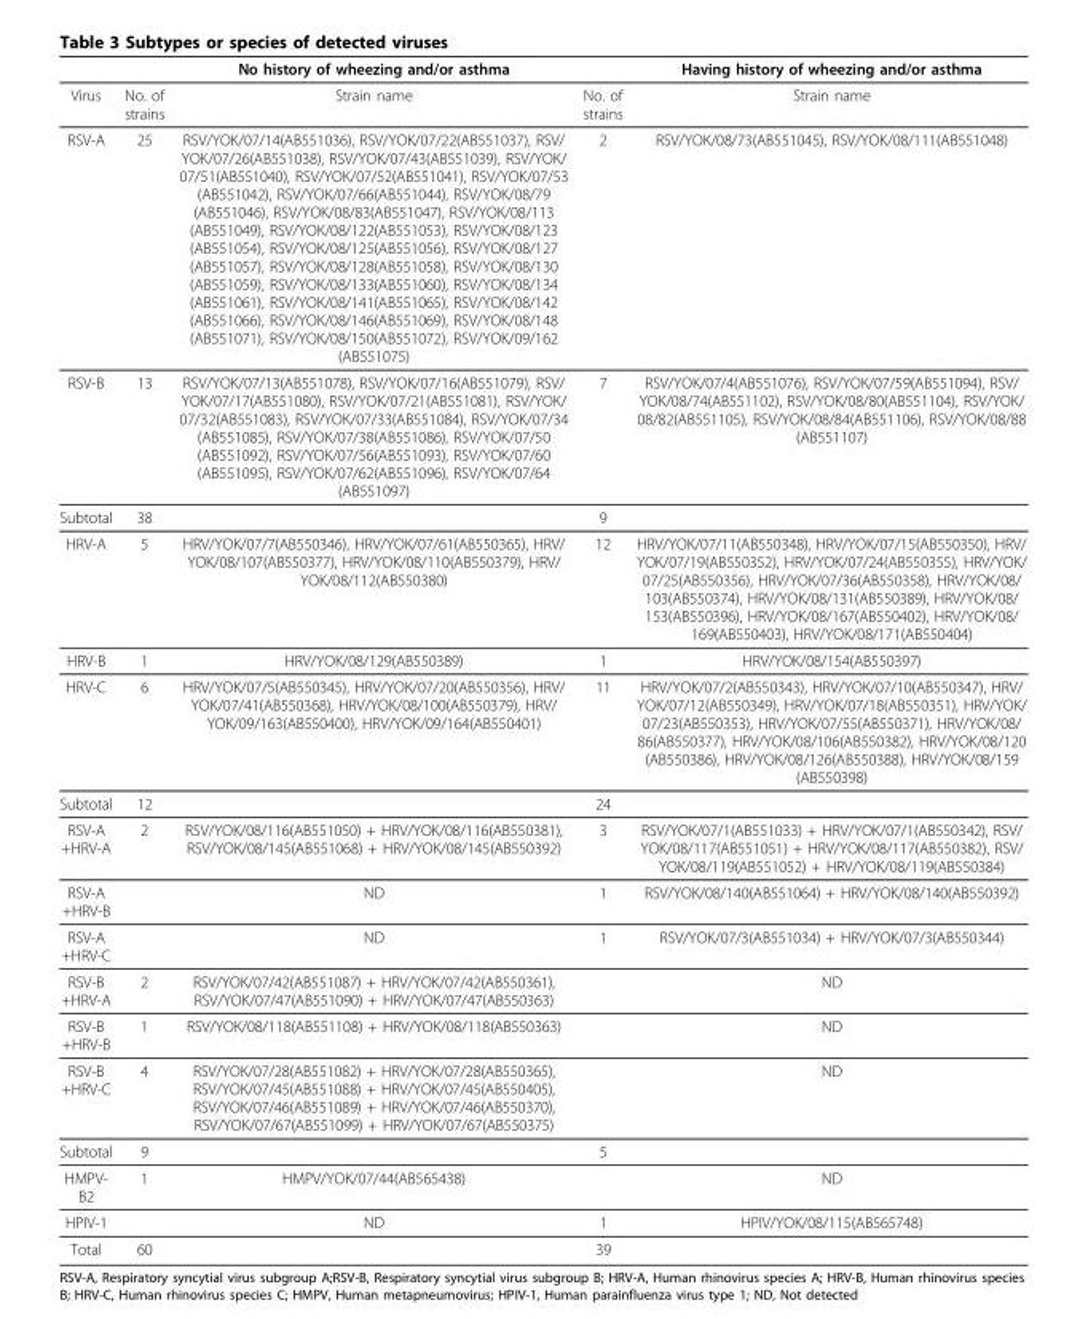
<table><thead><tr><td></td><td></td><td>No history of wheezing and/or asthma</td><td></td><td>Having history of wheezing and/or asthma</td></tr></thead><tbody><tr><td>Virus</td><td>No. of strains</td><td>Strain name</td><td>No. of strains</td><td>Strain name</td></tr><tr><td>RSV-A</td><td>25</td><td>RSV/YOK/07/14(AB551036), RSV/YOK/07/22(AB551037), RSV/ YOK/07/26(AB551038), RSV/YOK/07/43(AB551039), RSV/YOK/ 07/51(AB551040), RSV/YOK/07/52(AB551041), RSV/YOK/07/53 (AB551042), RSV/YOK/07/66(AB551044), RSV/YOK/08/79 (AB551046), RSV/YOK/08/83(AB551047), RSV/YOK/08/113 (AB551049), RSV/YOK/08/122(AB551053), RSV/YOK/08/123 (AB551054), RSV/YOK/08/125(AB551056), RSV/YOK/08/127 (AB551057), RSV/YOK/08/128(AB551058), RSV/YOK/08/130 (AB551059), RSV/YOK/08/133(AB551060), RSV/YOK/08/134 (AB551061), RSV/YOK/08/141(AB551065), RSV/YOK/08/142 (AB551066), RSV/YOK/08/146(AB551069), RSV/YOK/08/148 (AB551071), RSV/YOK/08/150(AB551072), RSV/YOK/09/162 (AB551075)</td><td>2</td><td>RSV/YOK/08/73(AB551045), RSV/YOK/08/111(AB551048)</td></tr><tr><td>RSV-B</td><td>13</td><td>RSV/YOK/07/13(AB551078), RSV/YOK/07/16(AB551079), RSV/ YOK/07/17(AB551080), RSV/YOK/07/21(AB551081), RSV/YOK/ 07/32(AB551083), RSV/YOK/07/33(AB551084), RSV/YOK/07/34 (AB551085), RSV/YOK/07/38(AB551086), RSV/YOK/07/50 (AB551092), RSV/YOK/07/56(AB551093), RSV/YOK/07/60 (AB551095), RSV/YOK/07/62(AB551096), RSV/YOK/07/64 (AB551097)</td><td>7</td><td>RSV/YOK/07/4(AB551076), RSV/YOK/07/59(AB551094), RSV/ YOK/08/74(AB551102), RSV/YOK/08/80(AB551104), RSV/YOK/ 08/82(AB551105), RSV/YOK/08/84(AB551106), RSV/YOK/08/88 (AB551107)</td></tr><tr><td>Subtotal</td><td>38</td><td></td><td>9</td><td></td></tr><tr><td>HRV-A</td><td>5</td><td>HRV/YOK/07/7(AB550346), HRV/YOK/07/61(AB550365), HRV/ YOK/08/107(AB550377), HRV/YOK/08/110(AB550379), HRV/ YOK/08/112(AB550380)</td><td>12</td><td>HRV/YOK/07/11(AB550348), HRV/YOK/07/15(AB550350), HRV/ YOK/07/19(AB550352), HRV/YOK/07/24(AB550355), HRV/YOK/ 07/25(AB550356), HRV/YOK/07/36(AB550358), HRV/YOK/08/ 103(AB550374), HRV/YOK/08/131(AB550389), HRV/YOK/08/ 153(AB550396), HRV/YOK/08/167(AB550402), HRV/YOK/08/ 169(AB550403), HRV/YOK/08/171(AB550404)</td></tr><tr><td>HRV-B</td><td>1</td><td>HRV/YOK/08/129(AB550389)</td><td>1</td><td>HRV/YOK/08/154(AB550397)</td></tr><tr><td>HRV-C</td><td>6</td><td>HRV/YOK/07/5(AB550345), HRV/YOK/07/20(AB550356), HRV/ YOK/07/41(AB550368), HRV/YOK/08/100(AB550379), HRV/ YOK/09/163(AB550400), HRV/YOK/09/164(AB550401)</td><td>11</td><td>HRV/YOK/07/2(AB550343), HRV/YOK/07/10(AB550347), HRV/ YOK/07/12(AB550349), HRV/YOK/07/18(AB550351), HRV/YOK/ 07/23(AB550353), HRV/YOK/07/55(AB550371), HRV/YOK/08/ 86(AB550377), HRV/YOK/08/106(AB550382), HRV/YOK/08/120 (AB550386), HRV/YOK/08/126(AB550388), HRV/YOK/08/159 (AB550398)</td></tr><tr><td>Subtotal</td><td>12</td><td></td><td>24</td><td></td></tr><tr><td>RSV-A +HRV-A</td><td>2</td><td>RSV/YOK/08/116(AB551050) + HRV/YOK/08/116(AB550381), RSV/YOK/08/145(AB551068) + HRV/YOK/08/145(AB550392)</td><td>3</td><td>RSV/YOK/07/1(AB551033) + HRV/YOK/07/1(AB550342), RSV/ YOK/08/117(AB551051) + HRV/YOK/08/117(AB550382), RSV/ YOK/08/119(AB551052) + HRV/YOK/08/119(AB550384)</td></tr><tr><td>RSV-A +HRV-B</td><td></td><td>ND</td><td>1</td><td>RSV/YOK/08/140(AB551064) + HRV/YOK/08/140(AB550392)</td></tr><tr><td>RSV-A +HRV-C</td><td></td><td>ND</td><td>1</td><td>RSV/YOK/07/3(AB551034) + HRV/YOK/07/3(AB550344)</td></tr><tr><td>RSV-B +HRV-A</td><td>2</td><td>RSV/YOK/07/42(AB551087) + HRV/YOK/07/42(AB550361), RSV/YOK/07/47(AB551090) + HRV/YOK/07/47(AB550363)</td><td></td><td>ND</td></tr><tr><td>RSV-B +HRV-B</td><td>1</td><td>RSV/YOK/08/118(AB551108) + HRV/YOK/08/118(AB550363)</td><td></td><td>ND</td></tr><tr><td>RSV-B +HRV-C</td><td>4</td><td>RSV/YOK/07/28(AB551082) + HRV/YOK/07/28(AB550365), RSV/YOK/07/45(AB551088) + HRV/YOK/07/45(AB550405), RSV/YOK/07/46(AB551089) + HRV/YOK/07/46(AB550370), RSV/YOK/07/67(AB551099) + HRV/YOK/07/67(AB550375)</td><td></td><td>ND</td></tr><tr><td>Subtotal</td><td>9</td><td></td><td>5</td><td></td></tr><tr><td>HMPV- B2</td><td>1</td><td>HMPV/YOK/07/44(AB565438)</td><td></td><td>ND</td></tr><tr><td>HPIV-1</td><td></td><td>ND</td><td>1</td><td>HPIV/YOK/08/115(AB565748)</td></tr><tr><td>Total</td><td>60</td><td></td><td>39</td><td></td></tr></tbody></table>